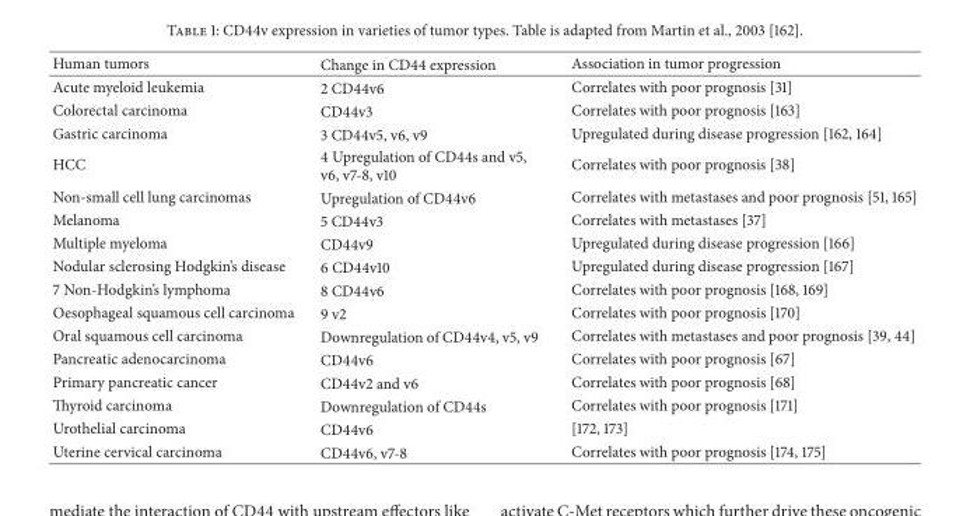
<table><thead><tr><td>Human tumors</td><td>Change in CD44 expression</td><td>Association in tumor progression</td></tr></thead><tbody><tr><td>Acute myeloid leukemia</td><td>2 CD44v6</td><td>Correlates with poor prognosis [31]</td></tr><tr><td>Colorectal carcinoma</td><td>CD44v3</td><td>Correlates with poor prognosis [163]</td></tr><tr><td>Gastric carcinoma</td><td>3 CD44v5, v6, v9</td><td>Upregulated during disease progression [162, 164]</td></tr><tr><td>HCC</td><td>4 Upregulation of CD44s and v5, v6, v7-8, v10</td><td>Correlates with poor prognosis [38]</td></tr><tr><td>Non-small cell lung carcinomas</td><td>Upregulation of CD44v6</td><td>Correlates with metastases and poor prognosis [51, 165]</td></tr><tr><td>Melanoma</td><td>5 CD44v3</td><td>Correlates with metastases [37]</td></tr><tr><td>Multiple myeloma</td><td>CD44v9</td><td>Upregulated during disease progression [166]</td></tr><tr><td>Nodular sclerosing Hodgkin’s disease</td><td>6 CD44v10</td><td>Upregulated during disease progression [167]</td></tr><tr><td>7 Non-Hodgkin’s lymphoma</td><td>8 CD44v6</td><td>Correlates with poor prognosis [168, 169]</td></tr><tr><td>Oesophageal squamous cell carcinoma</td><td>9 v2</td><td>Correlates with poor prognosis [170]</td></tr><tr><td>Oral squamous cell carcinoma</td><td>Downregulation of CD44v4, v5, v9</td><td>Correlates with metastases and poor prognosis [39, 44]</td></tr><tr><td>Pancreatic adenocarcinoma</td><td>CD44v6</td><td>Correlates with poor prognosis [67]</td></tr><tr><td>Primary pancreatic cancer</td><td>CD44v2 and v6</td><td>Correlates with poor prognosis [68]</td></tr><tr><td>Thyroid carcinoma</td><td>Downregulation of CD44s</td><td>Correlates with poor prognosis [171]</td></tr><tr><td>Urothelial carcinoma</td><td>CD44v6</td><td>[172, 173]</td></tr><tr><td>Uterine cervical carcinoma</td><td>CD44v6, v7-8</td><td>Correlates with poor prognosis [174, 175]</td></tr></tbody></table>